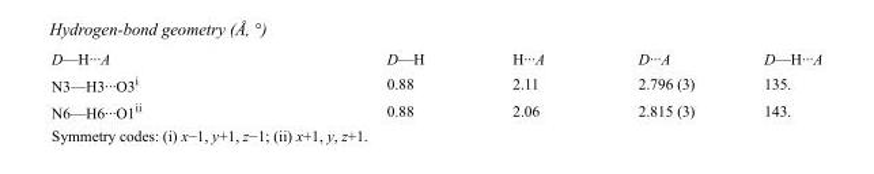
<table><tbody><tr><td>D—H···A</td><td>D—H</td><td>H···A</td><td>D···A</td><td>D—H···A</td></tr><tr><td>N3—H3···O3<sup>i</sup></td><td>0.88</td><td>2.11</td><td>2.796 (3)</td><td>135.</td></tr><tr><td>N6—H6···O1<sup>ii</sup></td><td>0.88</td><td>2.06</td><td>2.815 (3)</td><td>143.</td></tr></tbody></table>